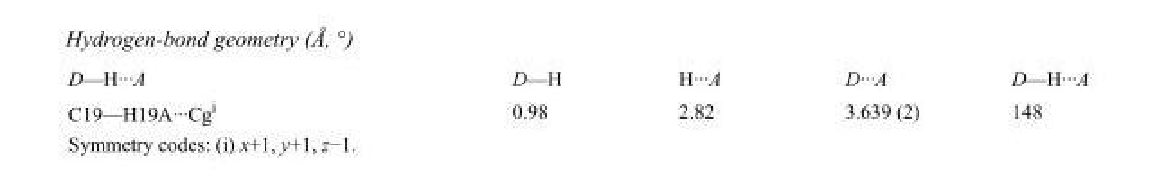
<table><tbody><tr><td>D—H···A</td><td>D—H</td><td>H···A</td><td>D···A</td><td>D—H···A</td></tr><tr><td>C19—H19A···Cg<sup>i</sup></td><td>0.98</td><td>2.82</td><td>3.639 (2)</td><td>148</td></tr></tbody></table>